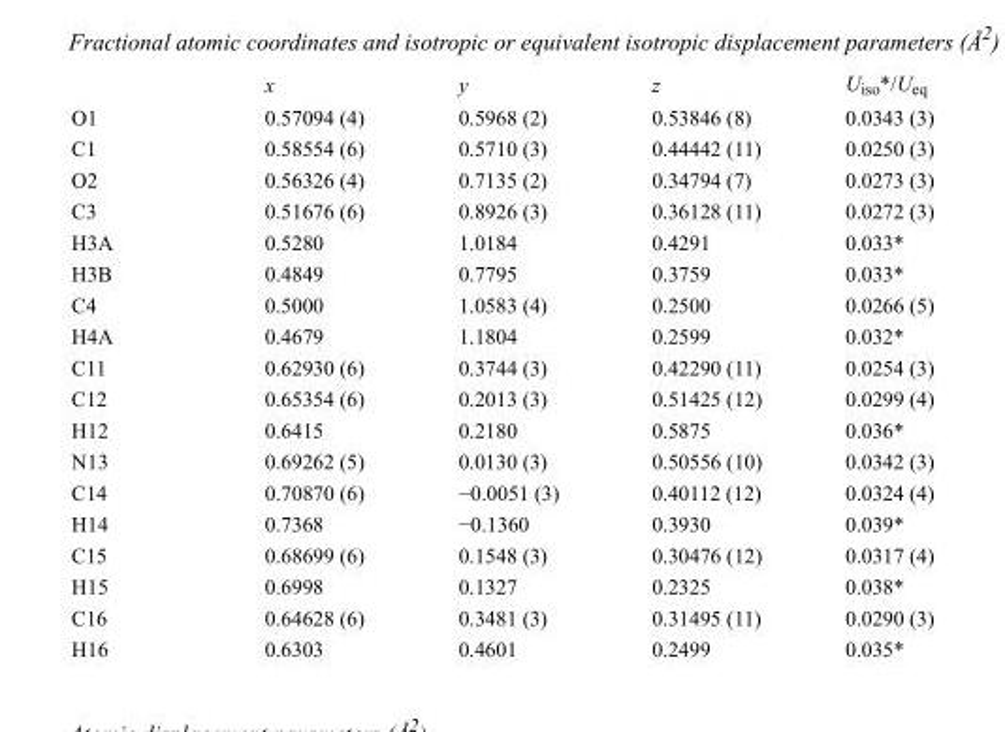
<table><thead><tr><td></td><td>x</td><td>y</td><td>z</td><td>U<sub>iso</sub>*/U<sub>eq</sub></td></tr></thead><tbody><tr><td>O1</td><td>0.57094 (4)</td><td>0.5968 (2)</td><td>0.53846 (8)</td><td>0.0343 (3)</td></tr><tr><td>C1</td><td>0.58554 (6)</td><td>0.5710 (3)</td><td>0.44442 (11)</td><td>0.0250 (3)</td></tr><tr><td>O2</td><td>0.56326 (4)</td><td>0.7135 (2)</td><td>0.34794 (7)</td><td>0.0273 (3)</td></tr><tr><td>C3</td><td>0.51676 (6)</td><td>0.8926 (3)</td><td>0.36128 (11)</td><td>0.0272 (3)</td></tr><tr><td>H3A</td><td>0.5280</td><td>1.0184</td><td>0.4291</td><td>0.033*</td></tr><tr><td>H3B</td><td>0.4849</td><td>0.7795</td><td>0.3759</td><td>0.033*</td></tr><tr><td>C4</td><td>0.5000</td><td>1.0583 (4)</td><td>0.2500</td><td>0.0266 (5)</td></tr><tr><td>H4A</td><td>0.4679</td><td>1.1804</td><td>0.2599</td><td>0.032*</td></tr><tr><td>C11</td><td>0.62930 (6)</td><td>0.3744 (3)</td><td>0.42290 (11)</td><td>0.0254 (3)</td></tr><tr><td>C12</td><td>0.65354 (6)</td><td>0.2013 (3)</td><td>0.51425 (12)</td><td>0.0299 (4)</td></tr><tr><td>H12</td><td>0.6415</td><td>0.2180</td><td>0.5875</td><td>0.036*</td></tr><tr><td>N13</td><td>0.69262 (5)</td><td>0.0130 (3)</td><td>0.50556 (10)</td><td>0.0342 (3)</td></tr><tr><td>C14</td><td>0.70870 (6)</td><td>−0.0051 (3)</td><td>0.40112 (12)</td><td>0.0324 (4)</td></tr><tr><td>H14</td><td>0.7368</td><td>−0.1360</td><td>0.3930</td><td>0.039*</td></tr><tr><td>C15</td><td>0.68699 (6)</td><td>0.1548 (3)</td><td>0.30476 (12)</td><td>0.0317 (4)</td></tr><tr><td>H15</td><td>0.6998</td><td>0.1327</td><td>0.2325</td><td>0.038*</td></tr><tr><td>C16</td><td>0.64628 (6)</td><td>0.3481 (3)</td><td>0.31495 (11)</td><td>0.0290 (3)</td></tr><tr><td>H16</td><td>0.6303</td><td>0.4601</td><td>0.2499</td><td>0.035*</td></tr></tbody></table>